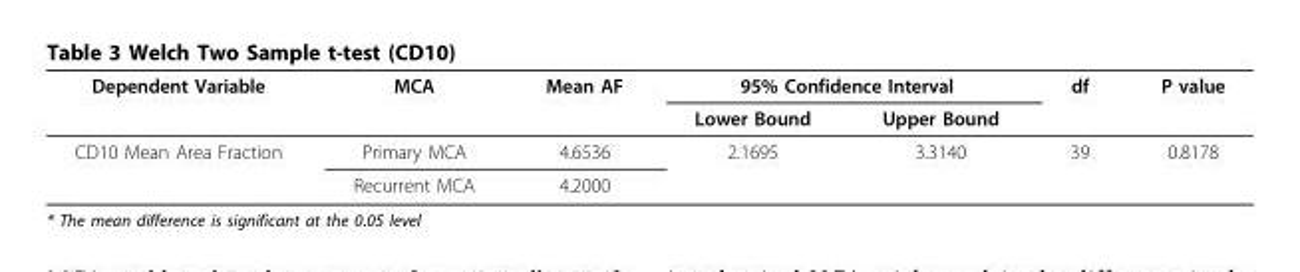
<table><thead><tr><td rowspan="2">Dependent Variable</td><td rowspan="2">MCA</td><td rowspan="2">Mean AF</td><td colspan="2">95% Confidence Interval</td><td rowspan="2">df</td><td rowspan="2">P value</td></tr><tr><td>Lower Bound</td><td>Upper Bound</td></tr></thead><tbody><tr><td rowspan="2">CD10 Mean Area Fraction</td><td>Primary MCA</td><td>4.6536</td><td>2.1695</td><td>3.3140</td><td>39</td><td>0.8178</td></tr><tr><td>Recurrent MCA</td><td>4.2000</td><td></td><td></td><td></td><td></td></tr></tbody></table>